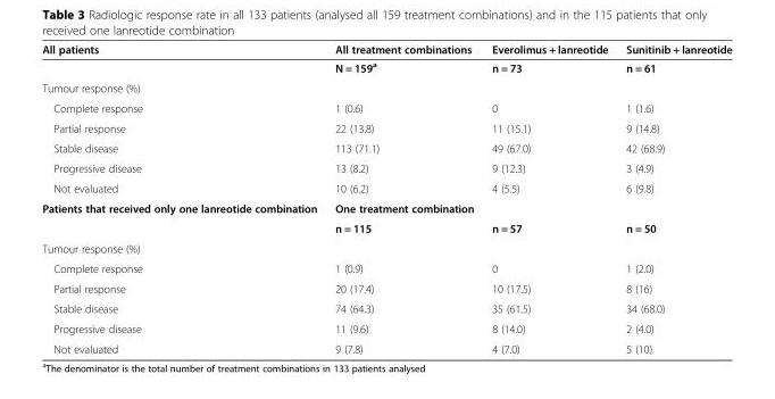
<table><thead><tr><td>All patients</td><td>All treatment combinations</td><td>Everolimus + lanreotide</td><td>Sunitinib + lanreotide</td></tr></thead><tbody><tr><td></td><td>N = 159<sup>a</sup></td><td>n = 73</td><td>n = 61</td></tr><tr><td colspan="4">Tumour response (%)</td></tr><tr><td>Complete response</td><td>1 (0.6)</td><td>0</td><td>1 (1.6)</td></tr><tr><td>Partial response</td><td>22 (13.8)</td><td>11 (15.1)</td><td>9 (14.8)</td></tr><tr><td>Stable disease</td><td>113 (71.1)</td><td>49 (67.0)</td><td>42 (68.9)</td></tr><tr><td>Progressive disease</td><td>13 (8.2)</td><td>9 (12.3)</td><td>3 (4.9)</td></tr><tr><td>Not evaluated</td><td>10 (6.2)</td><td>4 (5.5)</td><td>6 (9.8)</td></tr><tr><td rowspan="2">Patients that received only one lanreotide combination</td><td>One treatment combination</td><td></td><td></td></tr><tr><td>n = 115</td><td>n = 57</td><td>n = 50</td></tr><tr><td colspan="4">Tumour response (%)</td></tr><tr><td>Complete response</td><td>1 (0.9)</td><td>0</td><td>1 (2.0)</td></tr><tr><td>Partial response</td><td>20 (17.4)</td><td>10 (17.5)</td><td>8 (16)</td></tr><tr><td>Stable disease</td><td>74 (64.3)</td><td>35 (61.5)</td><td>34 (68.0)</td></tr><tr><td>Progressive disease</td><td>11 (9.6)</td><td>8 (14.0)</td><td>2 (4.0)</td></tr><tr><td>Not evaluated</td><td>9 (7.8)</td><td>4 (7.0)</td><td>5 (10)</td></tr></tbody></table>